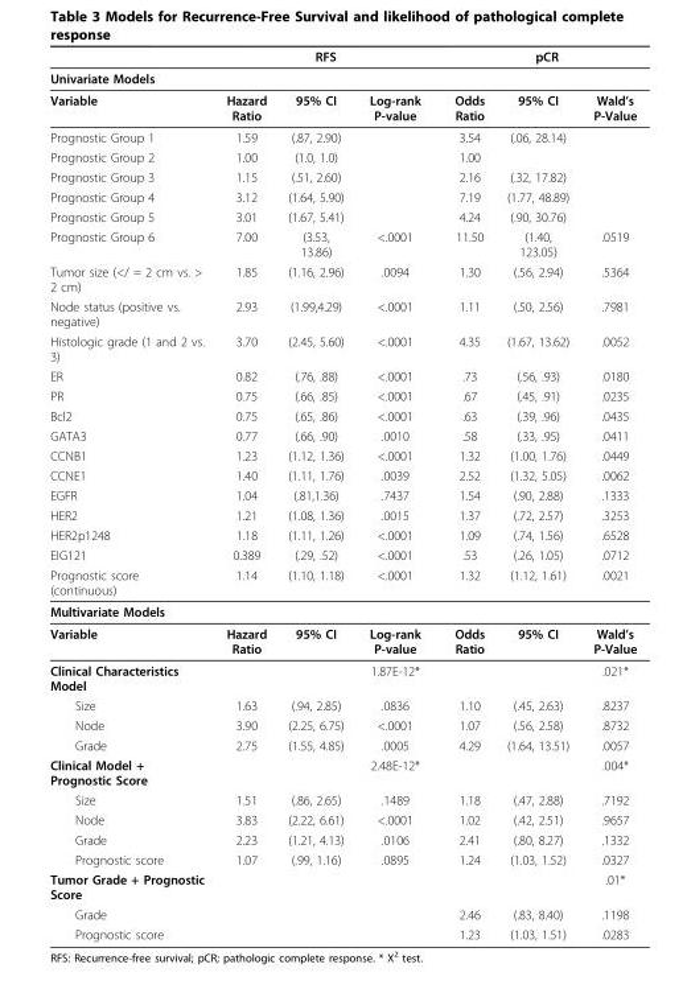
<table><thead><tr><td rowspan="2">Univariate Models</td><td colspan="3">RFS</td><td colspan="3">pCR</td></tr><tr><td></td><td></td><td></td><td></td><td></td><td></td></tr></thead><tbody><tr><td>Variable</td><td>Hazard Ratio</td><td>95% CI</td><td>Log-rank P-value</td><td>Odds Ratio</td><td>95% CI</td><td>Wald’s P-Value</td></tr><tr><td>Prognostic Group 1</td><td>1.59</td><td>(.87, 2.90)</td><td></td><td>3.54</td><td>(.06, 28.14)</td><td></td></tr><tr><td>Prognostic Group 2</td><td>1.00</td><td>(1.0, 1.0)</td><td></td><td>1.00</td><td></td><td></td></tr><tr><td>Prognostic Group 3</td><td>1.15</td><td>(.51, 2.60)</td><td></td><td>2.16</td><td>(.32, 17.82)</td><td></td></tr><tr><td>Prognostic Group 4</td><td>3.12</td><td>(1.64, 5.90)</td><td></td><td>7.19</td><td>(1.77, 48.89)</td><td></td></tr><tr><td>Prognostic Group 5</td><td>3.01</td><td>(1.67, 5.41)</td><td></td><td>4.24</td><td>(.90, 30.76)</td><td></td></tr><tr><td>Prognostic Group 6</td><td>7.00</td><td>(3.53, 13.86)</td><td>&lt;.0001</td><td>11.50</td><td>(1.40, 123.05)</td><td>.0519</td></tr><tr><td>Tumor size (&lt;/ = 2 cm vs. &gt; 2 cm)</td><td>1.85</td><td>(1.16, 2.96)</td><td>.0094</td><td>1.30</td><td>(.56, 2.94)</td><td>.5364</td></tr><tr><td>Node status (positive vs. negative)</td><td>2.93</td><td>(1.99,4.29)</td><td>&lt;.0001</td><td>1.11</td><td>(.50, 2.56)</td><td>.7981</td></tr><tr><td>Histologic grade (1 and 2 vs. 3)</td><td>3.70</td><td>(2.45, 5.60)</td><td>&lt;.0001</td><td>4.35</td><td>(1.67, 13.62)</td><td>.0052</td></tr><tr><td>ER</td><td>0.82</td><td>(.76, .88)</td><td>&lt;.0001</td><td>.73</td><td>(.56, .93)</td><td>.0180</td></tr><tr><td>PR</td><td>0.75</td><td>(.66, .85)</td><td>&lt;.0001</td><td>.67</td><td>(.45, .91)</td><td>.0235</td></tr><tr><td>Bcl2</td><td>0.75</td><td>(.65, .86)</td><td>&lt;.0001</td><td>.63</td><td>(.39, .96)</td><td>.0435</td></tr><tr><td>GATA3</td><td>0.77</td><td>(.66, .90)</td><td>.0010</td><td>.58</td><td>(.33, .95)</td><td>.0411</td></tr><tr><td>CCNB1</td><td>1.23</td><td>(1.12, 1.36)</td><td>&lt;.0001</td><td>1.32</td><td>(1.00, 1.76)</td><td>.0449</td></tr><tr><td>CCNE1</td><td>1.40</td><td>(1.11, 1.76)</td><td>.0039</td><td>2.52</td><td>(1.32, 5.05)</td><td>.0062</td></tr><tr><td>EGFR</td><td>1.04</td><td>(.81,1.36)</td><td>.7437</td><td>1.54</td><td>(.90, 2.88)</td><td>.1333</td></tr><tr><td>HER2</td><td>1.21</td><td>(1.08, 1.36)</td><td>.0015</td><td>1.37</td><td>(.72, 2.57)</td><td>.3253</td></tr><tr><td>HER2p1248</td><td>1.18</td><td>(1.11, 1.26)</td><td>&lt;.0001</td><td>1.09</td><td>(.74, 1.56)</td><td>.6528</td></tr><tr><td>EIG121</td><td>0.389</td><td>(.29, .52)</td><td>&lt;.0001</td><td>.53</td><td>(.26, 1.05)</td><td>.0712</td></tr><tr><td>Prognostic score (continuous)</td><td>1.14</td><td>(1.10, 1.18)</td><td>&lt;.0001</td><td>1.32</td><td>(1.12, 1.61)</td><td>.0021</td></tr><tr><td colspan="7">Multivariate Models</td></tr><tr><td>Variable</td><td>Hazard Ratio</td><td>95% CI</td><td>Log-rank P-value</td><td>Odds Ratio</td><td>95% CI</td><td>Wald’s P-Value</td></tr><tr><td>Clinical Characteristics Model</td><td></td><td></td><td>1.87E-12*</td><td></td><td></td><td>.021*</td></tr><tr><td>Size</td><td>1.63</td><td>(.94, 2.85)</td><td>.0836</td><td>1.10</td><td>(.45, 2.63)</td><td>.8237</td></tr><tr><td>Node</td><td>3.90</td><td>(2.25, 6.75)</td><td>&lt;.0001</td><td>1.07</td><td>(.56, 2.58)</td><td>.8732</td></tr><tr><td>Grade</td><td>2.75</td><td>(1.55, 4.85)</td><td>.0005</td><td>4.29</td><td>(1.64, 13.51)</td><td>.0057</td></tr><tr><td>Clinical Model + Prognostic Score</td><td></td><td></td><td>2.48E-12*</td><td></td><td></td><td>.004*</td></tr><tr><td>Size</td><td>1.51</td><td>(.86, 2.65)</td><td>.1489</td><td>1.18</td><td>(.47, 2.88)</td><td>.7192</td></tr><tr><td>Node</td><td>3.83</td><td>(2.22, 6.61)</td><td>&lt;.0001</td><td>1.02</td><td>(.42, 2.51)</td><td>.9657</td></tr><tr><td>Grade</td><td>2.23</td><td>(1.21, 4.13)</td><td>.0106</td><td>2.41</td><td>(.80, 8.27)</td><td>.1332</td></tr><tr><td>Prognostic score</td><td>1.07</td><td>(.99, 1.16)</td><td>.0895</td><td>1.24</td><td>(1.03, 1.52)</td><td>.0327</td></tr><tr><td>Tumor Grade + Prognostic Score</td><td></td><td></td><td></td><td></td><td></td><td>.01*</td></tr><tr><td>Grade</td><td></td><td></td><td></td><td>2.46</td><td>(.83, 8.40)</td><td>.1198</td></tr><tr><td>Prognostic score</td><td></td><td></td><td></td><td>1.23</td><td>(1.03, 1.51)</td><td>.0283</td></tr></tbody></table>